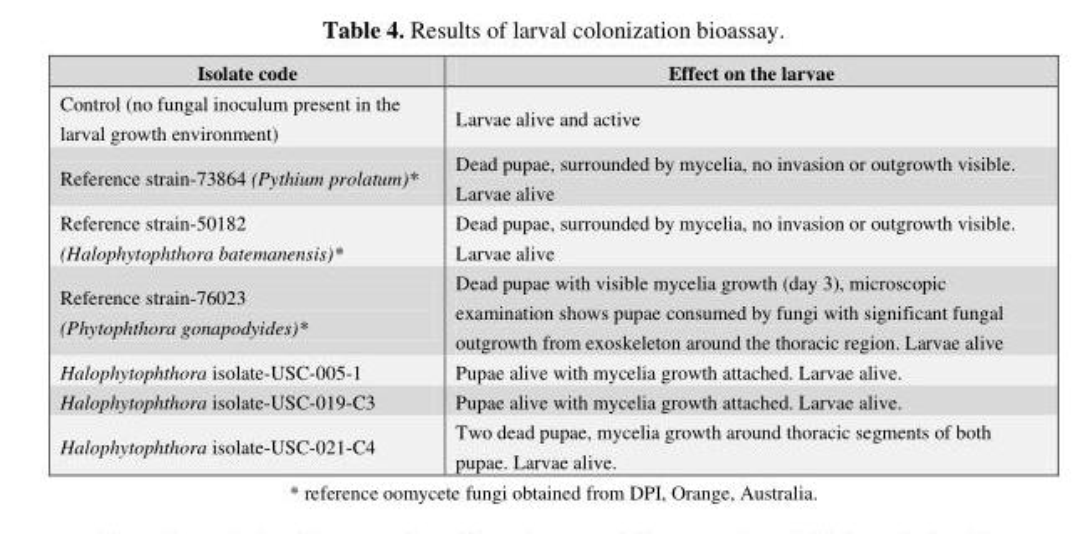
<table><thead><tr><td>Isolate code</td><td>Effect on the larvae</td></tr></thead><tbody><tr><td>Control (no fungal inoculum present in the larval growth environment)</td><td>Larvae alive and active</td></tr><tr><td>Reference strain-73864 (Pythium prolatum)*</td><td>Dead pupae, surrounded by mycelia, no invasion or outgrowth visible. Larvae alive</td></tr><tr><td>Reference strain-50182 (Halophytophthora batemanensis)*</td><td>Dead pupae, surrounded by mycelia, no invasion or outgrowth visible. Larvae alive</td></tr><tr><td>Reference strain-76023 (Phytophthora gonapodyides)*</td><td>Dead pupae with visible mycelia growth (day 3), microscopic examination shows pupae consumed by fungi with significant fungal outgrowth from exoskeleton around the thoracic region. Larvae alive</td></tr><tr><td>Halophytophthora isolate-USC-005-1</td><td>Pupae alive with mycelia growth attached. Larvae alive.</td></tr><tr><td>Halophytophthora isolate-USC-019-C3</td><td>Pupae alive with mycelia growth attached. Larvae alive.</td></tr><tr><td>Halophytophthora isolate-USC-021-C4</td><td>Two dead pupae, mycelia growth around thoracic segments of both pupae. Larvae alive.</td></tr></tbody></table>